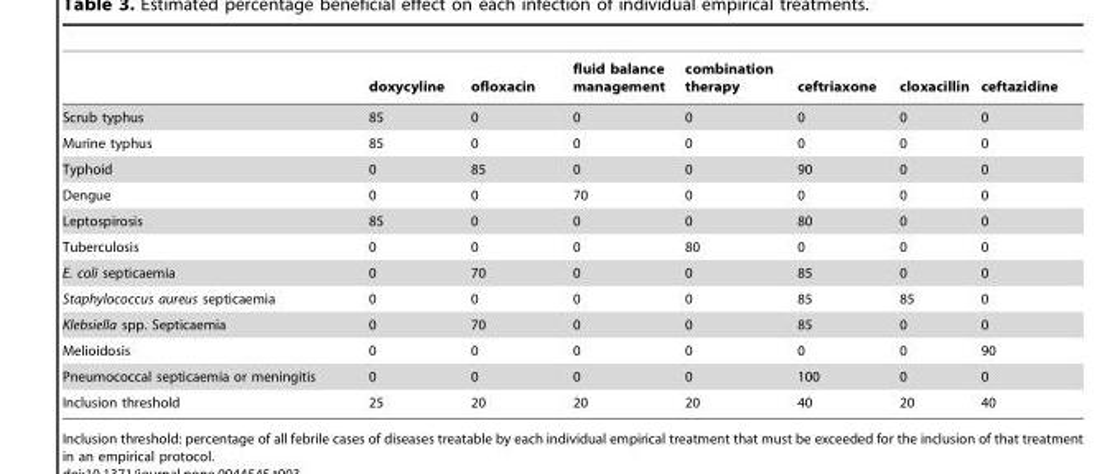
<table><thead><tr><td></td><td>doxycyline</td><td>ofloxacin</td><td>fluid balance management</td><td>combination therapy</td><td>ceftriaxone</td><td>cloxacillin</td><td>ceftazidine</td></tr></thead><tbody><tr><td>Scrub typhus</td><td>85</td><td>0</td><td>0</td><td>0</td><td>0</td><td>0</td><td>0</td></tr><tr><td>Murine typhus</td><td>85</td><td>0</td><td>0</td><td>0</td><td>0</td><td>0</td><td>0</td></tr><tr><td>Typhoid</td><td>0</td><td>85</td><td>0</td><td>0</td><td>90</td><td>0</td><td>0</td></tr><tr><td>Dengue</td><td>0</td><td>0</td><td>70</td><td>0</td><td>0</td><td>0</td><td>0</td></tr><tr><td>Leptospirosis</td><td>85</td><td>0</td><td>0</td><td>0</td><td>80</td><td>0</td><td>0</td></tr><tr><td>Tuberculosis</td><td>0</td><td>0</td><td>0</td><td>80</td><td>0</td><td>0</td><td>0</td></tr><tr><td>E. coli septicaemia</td><td>0</td><td>70</td><td>0</td><td>0</td><td>85</td><td>0</td><td>0</td></tr><tr><td>Staphylococcus aureus septicaemia</td><td>0</td><td>0</td><td>0</td><td>0</td><td>85</td><td>85</td><td>0</td></tr><tr><td>Klebsiella spp. Septicaemia</td><td>0</td><td>70</td><td>0</td><td>0</td><td>85</td><td>0</td><td>0</td></tr><tr><td>Melioidosis</td><td>0</td><td>0</td><td>0</td><td>0</td><td>0</td><td>0</td><td>90</td></tr><tr><td>Pneumococcal septicaemia or meningitis</td><td>0</td><td>0</td><td>0</td><td>0</td><td>100</td><td>0</td><td>0</td></tr><tr><td>Inclusion threshold</td><td>25</td><td>20</td><td>20</td><td>20</td><td>40</td><td>20</td><td>40</td></tr></tbody></table>